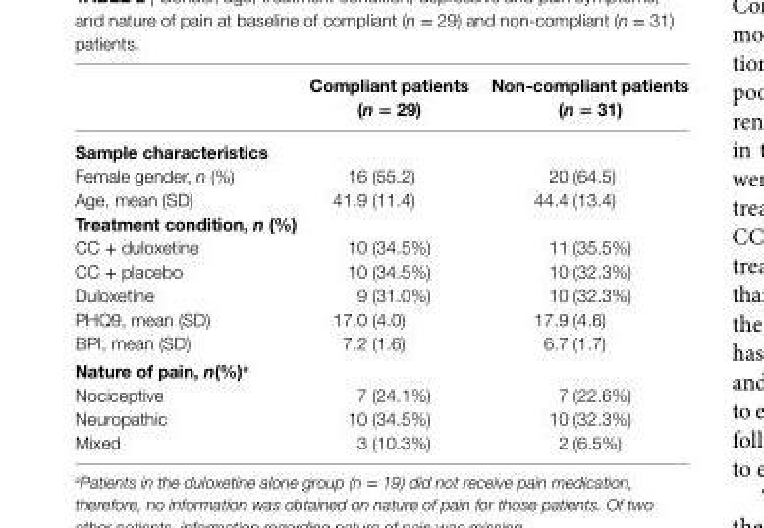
<table><thead><tr><td></td><td>Compliant patients (n = 29)</td><td>non-compliant patients (n = 31)</td></tr></thead><tbody><tr><td colspan="3">Sample characteristics</td></tr><tr><td>Female gender, n (%)</td><td>16 (55.2)</td><td>20 (64.5)</td></tr><tr><td>Age, mean (SD)</td><td>41.9 (11.4)</td><td>44.4 (13.4)</td></tr><tr><td colspan="3">Treatment condition, n (%)</td></tr><tr><td>CC + duloxetine CC + placebo Duloxetine</td><td>10 (34.5%) 10 (34.5%) 9 (31.0%)</td><td>11 (35.5%) 10 (32.3%) 10 (32.3%)</td></tr><tr><td>PHQ9, mean (SD)</td><td>17.0 (4.0)</td><td>17.9 (4.6)</td></tr><tr><td>BPI, mean (SD)</td><td>7.2 (1.6)</td><td>6.7 (1.7)</td></tr><tr><td colspan="3">nature of pain, n(%)<sup>a</sup></td></tr><tr><td>Nociceptive Neuropathic Mixed</td><td>7 (24.1%) 10 (34.5%) 3 (10.3%)</td><td>7 (22.6%) 10 (32.3%) 2 (6.5%)</td></tr></tbody></table>